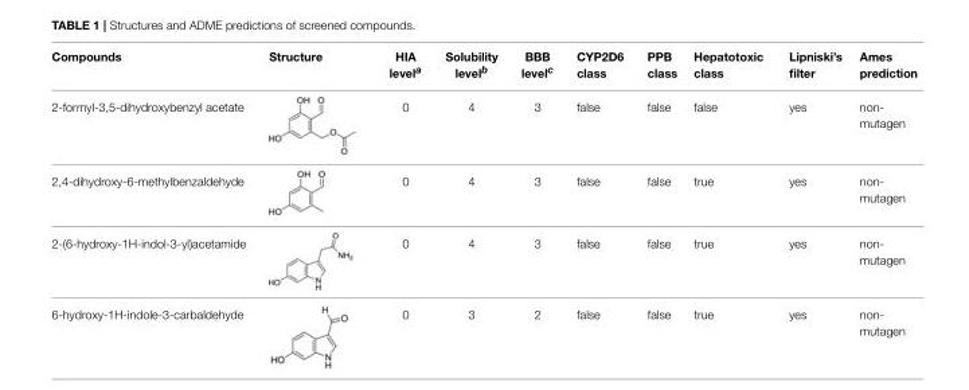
<table><thead><tr><td>Compounds</td><td>Structure</td><td>HIA level<sup>a</sup></td><td>Solubility level<sup>b</sup></td><td>BBB level<sup>c</sup></td><td>CYP2D6 class</td><td>PPB class</td><td>Hepatotoxic class</td><td>Lipniski’s filter</td><td>Ames prediction</td></tr></thead><tbody><tr><td>2-formyl-3,5-dihydroxybenzyl acetate</td><td></td><td>0</td><td>4</td><td>3</td><td>false</td><td>false</td><td>false</td><td>yes</td><td>non- mutagen</td></tr><tr><td>2,4-dihydroxy-6-methylbenzaldehyde</td><td></td><td>0</td><td>4</td><td>3</td><td>false</td><td>false</td><td>true</td><td>yes</td><td>non- mutagen</td></tr><tr><td>2-(6-hydroxy-1H-indol-3-yl)acetamide</td><td></td><td>0</td><td>4</td><td>3</td><td>false</td><td>false</td><td>true</td><td>yes</td><td>non- mutagen</td></tr><tr><td>6-hydroxy-1H-indole-3-carbaldehyde</td><td></td><td>0</td><td>3</td><td>2</td><td>false</td><td>false</td><td>true</td><td>yes</td><td>non- mutagen</td></tr></tbody></table>